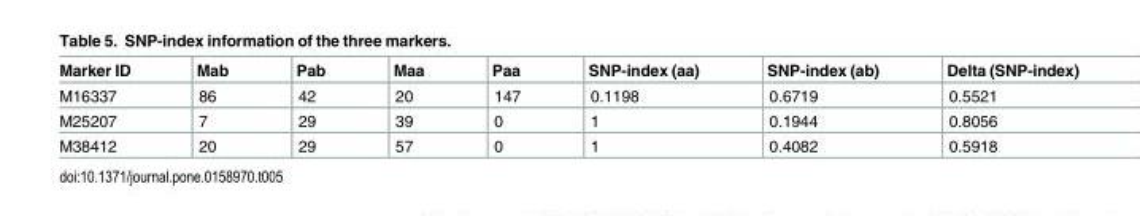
<table><thead><tr><td>Marker ID</td><td>Mab</td><td>Pab</td><td>Maa</td><td>Paa</td><td>SNP-index (aa)</td><td>SNP-index (ab)</td><td>Delta (SNP-index)</td></tr></thead><tbody><tr><td>M16337</td><td>86</td><td>42</td><td>20</td><td>147</td><td>0.1198</td><td>0.6719</td><td>0.5521</td></tr><tr><td>M25207</td><td>7</td><td>29</td><td>39</td><td>0</td><td>1</td><td>0.1944</td><td>0.8056</td></tr><tr><td>M38412</td><td>20</td><td>29</td><td>57</td><td>0</td><td>1</td><td>0.4082</td><td>0.5918</td></tr></tbody></table>